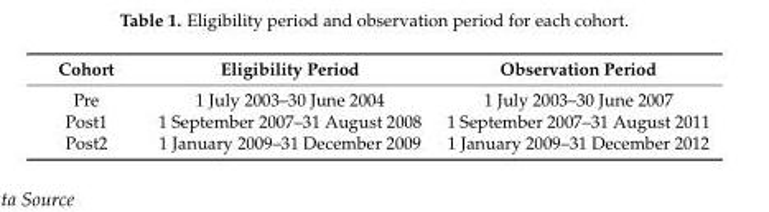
<table><thead><tr><td>Cohort</td><td>Eligibility Period</td><td>Observation Period</td></tr></thead><tbody><tr><td>Pre</td><td>1 July 2003–30 June 2004</td><td>1 July 2003–30 June 2007</td></tr><tr><td>Post1</td><td>1 September 2007–31 August 2008</td><td>1 September 2007–31 August 2011</td></tr><tr><td>Post2</td><td>1 January 2009–31 December 2009</td><td>1 January 2009–31 December 2012</td></tr></tbody></table>